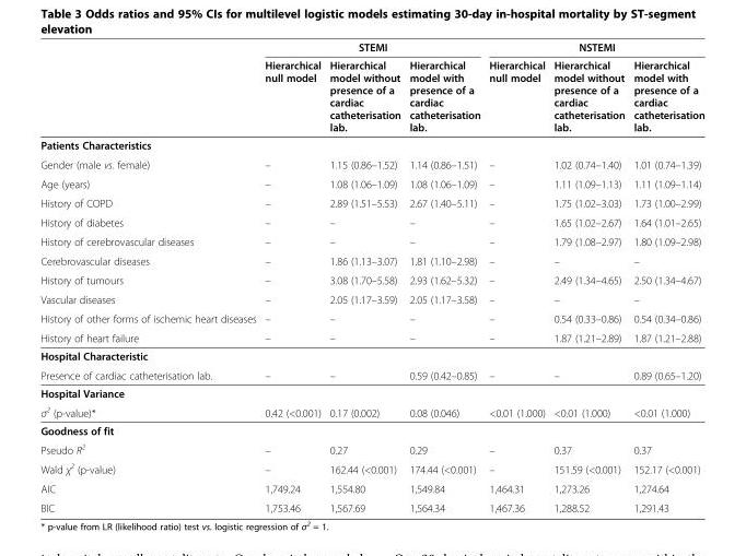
<table><thead><tr><td rowspan="2"></td><td colspan="3">STEMI</td><td colspan="3">NSTEMI</td></tr><tr><td>Hierarchical null model</td><td>Hierarchical model without presence of a cardiac catheterisation lab.</td><td>Hierarchical model with presence of a cardiac catheterisation lab.</td><td>Hierarchical null model</td><td>Hierarchical model without presence of a cardiac catheterisation lab.</td><td>Hierarchical model with presence of a cardiac catheterisation lab.</td></tr></thead><tbody><tr><td colspan="7">Patients Characteristics</td></tr><tr><td>Gender (male vs. female)</td><td>–</td><td>1.15 (0.86–1.52)</td><td>1.14 (0.86–1.51)</td><td>–</td><td>1.02 (0.74–1.40)</td><td>1.01 (0.74–1.39)</td></tr><tr><td>Age (years)</td><td>–</td><td>1.08 (1.06–1.09)</td><td>1.08 (1.06–1.09)</td><td>–</td><td>1.11 (1.09–1.13)</td><td>1.11 (1.09–1.14)</td></tr><tr><td>History of COPD</td><td>–</td><td>2.89 (1.51–5.53)</td><td>2.67 (1.40–5.11)</td><td>–</td><td>1.75 (1.02–3.03)</td><td>1.73 (1.00–2.99)</td></tr><tr><td>History of diabetes</td><td>–</td><td>–</td><td>–</td><td>–</td><td>1.65 (1.02–2.67)</td><td>1.64 (1.01–2.65)</td></tr><tr><td>History of cerebrovascular diseases</td><td>–</td><td>–</td><td>–</td><td>–</td><td>1.79 (1.08–2.97)</td><td>1.80 (1.09–2.98)</td></tr><tr><td>Cerebrovascular diseases</td><td>–</td><td>1.86 (1.13–3.07)</td><td>1.81 (1.10–2.98)</td><td>–</td><td>–</td><td>–</td></tr><tr><td>History of tumours</td><td>–</td><td>3.08 (1.70–5.58)</td><td>2.93 (1.62–5.32)</td><td>–</td><td>2.49 (1.34–4.65)</td><td>2.50 (1.34–4.67)</td></tr><tr><td>Vascular diseases</td><td>–</td><td>2.05 (1.17–3.59)</td><td>2.05 (1.17–3.58)</td><td>–</td><td>–</td><td>–</td></tr><tr><td>History of other forms of ischemic heart diseases</td><td>–</td><td>–</td><td>–</td><td>–</td><td>0.54 (0.33–0.86)</td><td>0.54 (0.34–0.86)</td></tr><tr><td>History of heart failure</td><td>–</td><td>–</td><td>–</td><td>–</td><td>1.87 (1.21–2.89)</td><td>1.87 (1.21–2.88)</td></tr><tr><td colspan="7">Hospital Characteristic</td></tr><tr><td>Presence of cardiac catheterisation lab.</td><td>–</td><td>–</td><td>0.59 (0.42–0.85)</td><td>–</td><td>–</td><td>0.89 (0.65–1.20)</td></tr><tr><td colspan="7">Hospital Variance</td></tr><tr><td>σ<sup>2</sup> (p-value)*</td><td>0.42 (&lt;0.001)</td><td>0.17 (0.002)</td><td>0.08 (0.046)</td><td>&lt;0.01 (1.000)</td><td>&lt;0.01 (1.000)</td><td>&lt;0.01 (1.000)</td></tr><tr><td colspan="7">Goodness of fit</td></tr><tr><td>Pseudo R<sup>2</sup></td><td>–</td><td>0.27</td><td>0.29</td><td>–</td><td>0.37</td><td>0.37</td></tr><tr><td>Wald χ<sup>2</sup> (p-value)</td><td>–</td><td>162.44 (&lt;0.001)</td><td>174.44 (&lt;0.001)</td><td>–</td><td>151.59 (&lt;0.001)</td><td>152.17 (&lt;0.001)</td></tr><tr><td>AIC</td><td>1,749.24</td><td>1,554.80</td><td>1,549.84</td><td>1,464.31</td><td>1,273.26</td><td>1,274.64</td></tr><tr><td>BIC</td><td>1,753.46</td><td>1,567.69</td><td>1,564.34</td><td>1,467.36</td><td>1,288.52</td><td>1,291.43</td></tr></tbody></table>